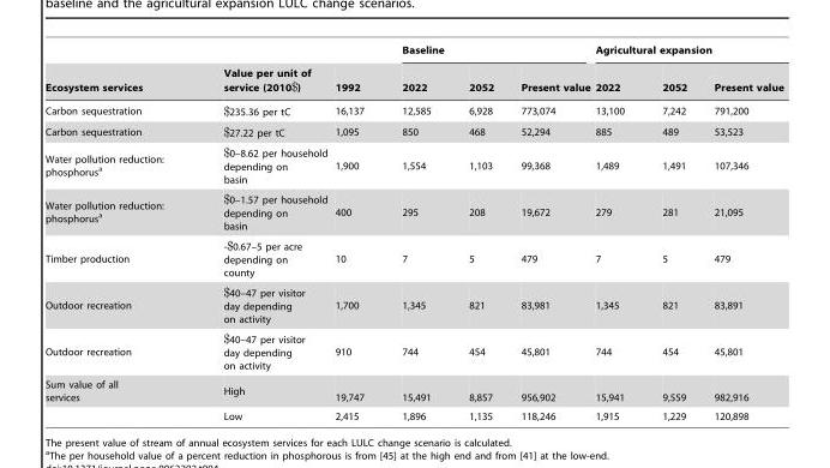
<table><thead><tr><td rowspan="2">Ecosystem services</td><td rowspan="2">Value per unit of service (2010$)</td><td rowspan="2">1992</td><td colspan="3">Baseline</td><td colspan="3">Agricultural expansion</td></tr><tr><td>2022</td><td>2052</td><td>Present value</td><td>2022</td><td>2052</td><td>Present value</td></tr></thead><tbody><tr><td>Carbon sequestration</td><td>$235.36 per tC</td><td>16,137</td><td>12,585</td><td>6,928</td><td>773,074</td><td>13,100</td><td>7,242</td><td>791,200</td></tr><tr><td>Carbon sequestration</td><td>$27.22 per tC</td><td>1,095</td><td>850</td><td>468</td><td>52,294</td><td>885</td><td>489</td><td>53,523</td></tr><tr><td>Water pollution reduction: phosphorus<sup>a</sup></td><td>$0–8.62 per household depending on basin</td><td>1,900</td><td>1,554</td><td>1,103</td><td>99,368</td><td>1,489</td><td>1,491</td><td>107,346</td></tr><tr><td>Water pollution reduction: phosphorus<sup>a</sup></td><td>$0–1.57 per household depending on basin</td><td>400</td><td>295</td><td>208</td><td>19,672</td><td>279</td><td>281</td><td>21,095</td></tr><tr><td>Timber production</td><td>-$0.67–5 per acre depending on county</td><td>10</td><td>7</td><td>5</td><td>479</td><td>7</td><td>5</td><td>479</td></tr><tr><td>Outdoor recreation</td><td>$40–47 per visitor day depending on activity</td><td>1,700</td><td>1,345</td><td>821</td><td>83,981</td><td>1,345</td><td>821</td><td>83,891</td></tr><tr><td>Outdoor recreation</td><td>$40–47 per visitor day depending on activity</td><td>910</td><td>744</td><td>454</td><td>45,801</td><td>744</td><td>454</td><td>45,801</td></tr><tr><td rowspan="2">Sum value of all services</td><td>High</td><td>19,747</td><td>15,491</td><td>8,857</td><td>956,902</td><td>15,941</td><td>9,559</td><td>982,916</td></tr><tr><td>Low</td><td>2,415</td><td>1,896</td><td>1,135</td><td>118,246</td><td>1,915</td><td>1,229</td><td>120,898</td></tr></tbody></table>